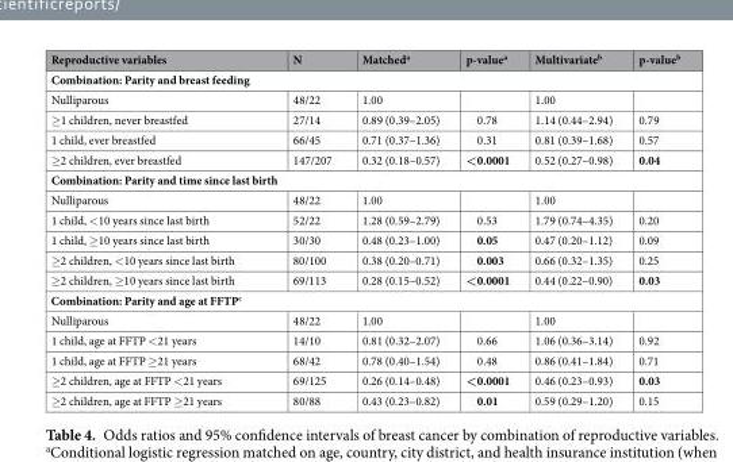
<table><thead><tr><td>Reproductive variables</td><td>N</td><td>Matched<sup>a</sup></td><td>p-value<sup>a</sup></td><td>Multivariate<sup>b</sup></td><td>p-value<sup>b</sup></td></tr></thead><tbody><tr><td colspan="6">Combination: Parity and breast feeding</td></tr><tr><td>Nulliparous</td><td>48/22</td><td>1.00</td><td></td><td>1.00</td><td></td></tr><tr><td>≥1 children, never breastfed</td><td>27/14</td><td>0.89 (0.39–2.05)</td><td>0.78</td><td>1.14 (0.44–2.94)</td><td>0.79</td></tr><tr><td>1 child, ever breastfed</td><td>66/45</td><td>0.71 (0.37–1.36)</td><td>0.31</td><td>0.81 (0.39–1.68)</td><td>0.57</td></tr><tr><td>≥2 children, ever breastfed</td><td>147/207</td><td>0.32 (0.18–0.57)</td><td>&lt;0.0001</td><td>0.52 (0.27–0.98)</td><td>0.04</td></tr><tr><td colspan="6">Combination: Parity and time since last birth</td></tr><tr><td>Nulliparous</td><td>48/22</td><td>1.00</td><td></td><td>1.00</td><td></td></tr><tr><td>1 child, &lt;10 years since last birth</td><td>52/22</td><td>1.28 (0.59–2.79)</td><td>0.53</td><td>1.79 (0.74–4.35)</td><td>0.20</td></tr><tr><td>1 child, ≥10 years since last birth</td><td>30/30</td><td>0.48 (0.23–1.00)</td><td>0.05</td><td>0.47 (0.20–1.12)</td><td>0.09</td></tr><tr><td>≥2 children, &lt;10 years since last birth</td><td>80/100</td><td>0.38 (0.20–0.71)</td><td>0.003</td><td>0.66 (0.32–1.35)</td><td>0.25</td></tr><tr><td>≥2 children, ≥10 years since last birth</td><td>69/113</td><td>0.28 (0.15–0.52)</td><td>&lt;0.0001</td><td>0.44 (0.22–0.90)</td><td>0.03</td></tr><tr><td colspan="6">Combination: Parity and age at FFTP<sup>c</sup></td></tr><tr><td>Nulliparous</td><td>48/22</td><td>1.00</td><td></td><td>1.00</td><td></td></tr><tr><td>1 child, age at FFTP &lt;21 years</td><td>14/10</td><td>0.81 (0.32–2.07)</td><td>0.66</td><td>1.06 (0.36–3.14)</td><td>0.92</td></tr><tr><td>1 child, age at FFTP ≥21 years</td><td>68/42</td><td>0.78 (0.40–1.54)</td><td>0.48</td><td>0.86 (0.41–1.84)</td><td>0.71</td></tr><tr><td>≥2 children, age at FFTP &lt;21 years</td><td>69/125</td><td>0.26 (0.14–0.48)</td><td>&lt;0.0001</td><td>0.46 (0.23–0.93)</td><td>0.03</td></tr><tr><td>≥2 children, age at FFTP ≥21 years</td><td>80/88</td><td>0.43 (0.23–0.82)</td><td>0.01</td><td>0.59 (0.29–1.20)</td><td>0.15</td></tr></tbody></table>